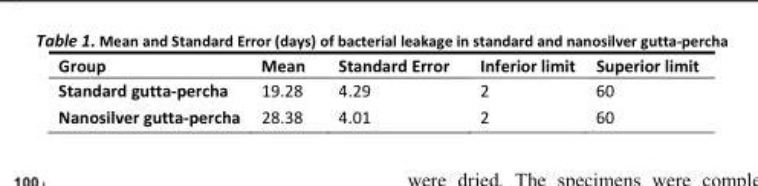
<table><thead><tr><td>Group</td><td>Mean</td><td>Standard Error</td><td>Inferior limit</td><td>Superior limit</td></tr></thead><tbody><tr><td>Standard gutta-percha</td><td>19.28</td><td>4.29</td><td>2</td><td>60</td></tr><tr><td>Nanosilver gutta-percha</td><td>28.38</td><td>4.01</td><td>2</td><td>60</td></tr></tbody></table>